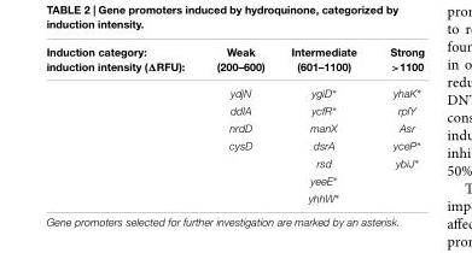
<table><thead><tr><td>Induction category: induction intensity (ΔRFU):</td><td>Weak (200–600)</td><td>Intermediate (601–1100)</td><td>Strong &gt;1100</td></tr></thead><tbody><tr><td></td><td>ydjN</td><td>ygiD∗</td><td>yhaK∗</td></tr><tr><td></td><td>ddlA</td><td>ycfR∗</td><td>rplY</td></tr><tr><td></td><td>nrdD</td><td>manX</td><td>Asr</td></tr><tr><td></td><td>cysD</td><td>dsrA</td><td>yceP∗</td></tr><tr><td></td><td></td><td>rsd</td><td>ybiJ∗</td></tr><tr><td></td><td></td><td>yeeE∗</td><td></td></tr><tr><td></td><td></td><td>yhhW∗</td><td></td></tr></tbody></table>